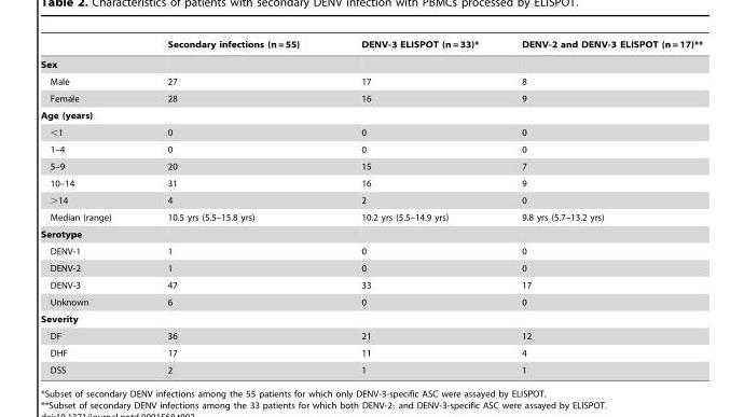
<table><thead><tr><td></td><td>Secondary infections (n = 55)</td><td>DENV-3 ELISPOT (n = 33)*</td><td>DENV-2 and DENV-3 ELISPOT (n = 17)**</td></tr></thead><tbody><tr><td colspan="4">Sex</td></tr><tr><td>Male</td><td>27</td><td>17</td><td>8</td></tr><tr><td>Female</td><td>28</td><td>16</td><td>9</td></tr><tr><td colspan="4">Age (years)</td></tr><tr><td>&lt;1</td><td>0</td><td>0</td><td>0</td></tr><tr><td>1–4</td><td>0</td><td>0</td><td>0</td></tr><tr><td>5–9</td><td>20</td><td>15</td><td>7</td></tr><tr><td>10–14</td><td>31</td><td>16</td><td>9</td></tr><tr><td>&gt;14</td><td>4</td><td>2</td><td>0</td></tr><tr><td>Median (range)</td><td>10.5 yrs (5.5–15.8 yrs)</td><td>10.2 yrs (5.5–14.9 yrs)</td><td>9.8 yrs (5.7–13.2 yrs)</td></tr><tr><td colspan="4">Serotype</td></tr><tr><td>DENV-1</td><td>1</td><td>0</td><td>0</td></tr><tr><td>DENV-2</td><td>1</td><td>0</td><td>0</td></tr><tr><td>DENV-3</td><td>47</td><td>33</td><td>17</td></tr><tr><td>Unknown</td><td>6</td><td>0</td><td>0</td></tr><tr><td colspan="4">Severity</td></tr><tr><td>DF</td><td>36</td><td>21</td><td>12</td></tr><tr><td>DHF</td><td>17</td><td>11</td><td>4</td></tr><tr><td>DSS</td><td>2</td><td>1</td><td>1</td></tr></tbody></table>